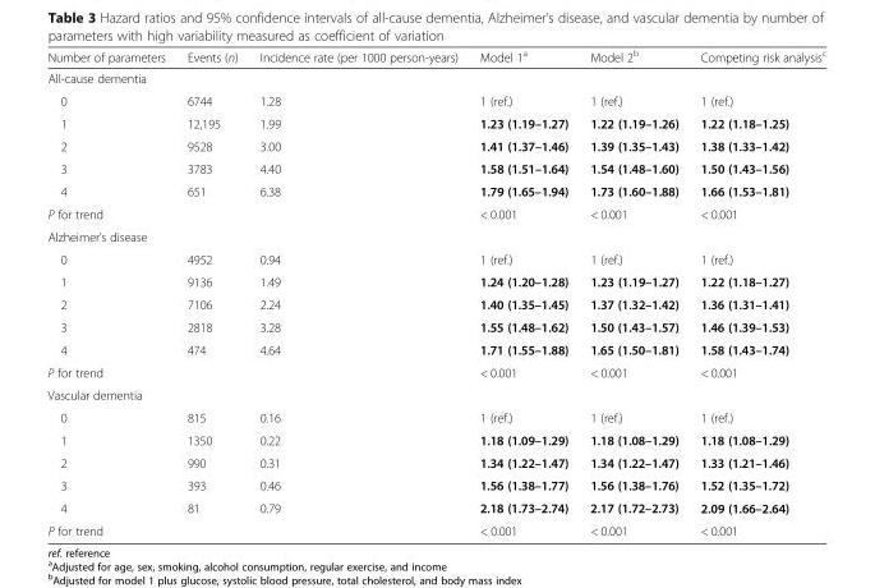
<table><thead><tr><td>Number of parameters</td><td>Events (n)</td><td>Incidence rate (per 1000 person-years)</td><td>Model 1<sup>a</sup></td><td>Model 2<sup>b</sup></td><td>Competing risk analysis<sup>c</sup></td></tr></thead><tbody><tr><td colspan="6">All-cause dementia</td></tr><tr><td>0</td><td>6744</td><td>1.28</td><td>1 (ref.)</td><td>1 (ref.)</td><td>1 (ref.)</td></tr><tr><td>1</td><td>12,195</td><td>1.99</td><td>1.23 (1.19–1.27)</td><td>1.22 (1.19–1.26)</td><td>1.22 (1.18–1.25)</td></tr><tr><td>2</td><td>9528</td><td>3.00</td><td>1.41 (1.37–1.46)</td><td>1.39 (1.35–1.43)</td><td>1.38 (1.33–1.42)</td></tr><tr><td>3</td><td>3783</td><td>4.40</td><td>1.58 (1.51–1.64)</td><td>1.54 (1.48–1.60)</td><td>1.50 (1.43–1.56)</td></tr><tr><td>4</td><td>651</td><td>6.38</td><td>1.79 (1.65–1.94)</td><td>1.73 (1.60–1.88)</td><td>1.66 (1.53–1.81)</td></tr><tr><td colspan="2">P for trend</td><td></td><td>&lt; 0.001</td><td>&lt; 0.001</td><td>&lt; 0.001</td></tr><tr><td colspan="6">Alzheimer’s disease</td></tr><tr><td>0</td><td>4952</td><td>0.94</td><td>1 (ref.)</td><td>1 (ref.)</td><td>1 (ref.)</td></tr><tr><td>1</td><td>9136</td><td>1.49</td><td>1.24 (1.20–1.28)</td><td>1.23 (1.19–1.27)</td><td>1.22 (1.18–1.27)</td></tr><tr><td>2</td><td>7106</td><td>2.24</td><td>1.40 (1.35–1.45)</td><td>1.37 (1.32–1.42)</td><td>1.36 (1.31–1.41)</td></tr><tr><td>3</td><td>2818</td><td>3.28</td><td>1.55 (1.48–1.62)</td><td>1.50 (1.43–1.57)</td><td>1.46 (1.39–1.53)</td></tr><tr><td>4</td><td>474</td><td>4.64</td><td>1.71 (1.55–1.88)</td><td>1.65 (1.50–1.81)</td><td>1.58 (1.43–1.74)</td></tr><tr><td colspan="2">P for trend</td><td></td><td>&lt; 0.001</td><td>&lt; 0.001</td><td>&lt; 0.001</td></tr><tr><td colspan="6">Vascular dementia</td></tr><tr><td>0</td><td>815</td><td>0.16</td><td>1 (ref.)</td><td>1 (ref.)</td><td>1 (ref.)</td></tr><tr><td>1</td><td>1350</td><td>0.22</td><td>1.18 (1.09–1.29)</td><td>1.18 (1.08–1.29)</td><td>1.18 (1.08–1.29)</td></tr><tr><td>2</td><td>990</td><td>0.31</td><td>1.34 (1.22–1.47)</td><td>1.34 (1.22–1.47)</td><td>1.33 (1.21–1.46)</td></tr><tr><td>3</td><td>393</td><td>0.46</td><td>1.56 (1.38–1.77)</td><td>1.56 (1.38–1.76)</td><td>1.52 (1.35–1.72)</td></tr><tr><td>4</td><td>81</td><td>0.79</td><td>2.18 (1.73–2.74)</td><td>2.17 (1.72–2.73)</td><td>2.09 (1.66–2.64)</td></tr><tr><td colspan="2">P for trend</td><td></td><td>&lt; 0.001</td><td>&lt; 0.001</td><td>&lt; 0.001</td></tr></tbody></table>